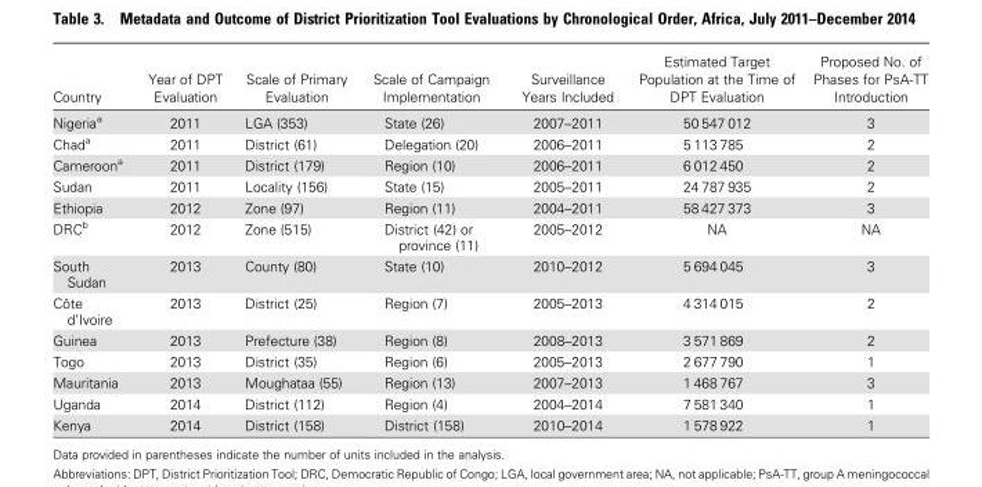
<table><thead><tr><td>Country</td><td>Year of DPT Evaluation</td><td>Scale of Primary Evaluation</td><td>Scale of Campaign Implementation</td><td>Surveillance Years Included</td><td>Estimated Target Population at the Time of DPT Evaluation</td><td>Proposed No. of Phases for PsA-TT Introduction</td></tr></thead><tbody><tr><td>Nigeria<sup>a</sup></td><td>2011</td><td>LGA (353)</td><td>State (26)</td><td>2007–2011</td><td>50 547 012</td><td>3</td></tr><tr><td>Chad<sup>a</sup></td><td>2011</td><td>District (61)</td><td>Delegation (20)</td><td>2006–2011</td><td>5 113 785</td><td>2</td></tr><tr><td>Cameroon<sup>a</sup></td><td>2011</td><td>District (179)</td><td>Region (10)</td><td>2006–2011</td><td>6 012 450</td><td>2</td></tr><tr><td>Sudan</td><td>2011</td><td>Locality (156)</td><td>State (15)</td><td>2005–2011</td><td>24 787 935</td><td>2</td></tr><tr><td>Ethiopia</td><td>2012</td><td>Zone (97)</td><td>Region (11)</td><td>2004–2011</td><td>58 427 373</td><td>3</td></tr><tr><td>DRC<sup>b</sup></td><td>2012</td><td>Zone (515)</td><td>District (42) or province (11)</td><td>2005–2012</td><td>NA</td><td>NA</td></tr><tr><td>South Sudan</td><td>2013</td><td>County (80)</td><td>State (10)</td><td>2010–2012</td><td>5 694 045</td><td>3</td></tr><tr><td>Côte d’Ivoire</td><td>2013</td><td>District (25)</td><td>Region (7)</td><td>2005–2013</td><td>4 314 015</td><td>2</td></tr><tr><td>Guinea</td><td>2013</td><td>Prefecture (38)</td><td>Region (8)</td><td>2008–2013</td><td>3 571 869</td><td>2</td></tr><tr><td>Togo</td><td>2013</td><td>District (35)</td><td>Region (6)</td><td>2005–2013</td><td>2 677 790</td><td>1</td></tr><tr><td>Mauritania</td><td>2013</td><td>Moughataa (55)</td><td>Region (13)</td><td>2007–2013</td><td>1 468 767</td><td>3</td></tr><tr><td>Uganda</td><td>2014</td><td>District (112)</td><td>Region (4)</td><td>2004–2014</td><td>7 581 340</td><td>1</td></tr><tr><td>Kenya</td><td>2014</td><td>District (158)</td><td>District (158)</td><td>2010–2014</td><td>1 578 922</td><td>1</td></tr></tbody></table>